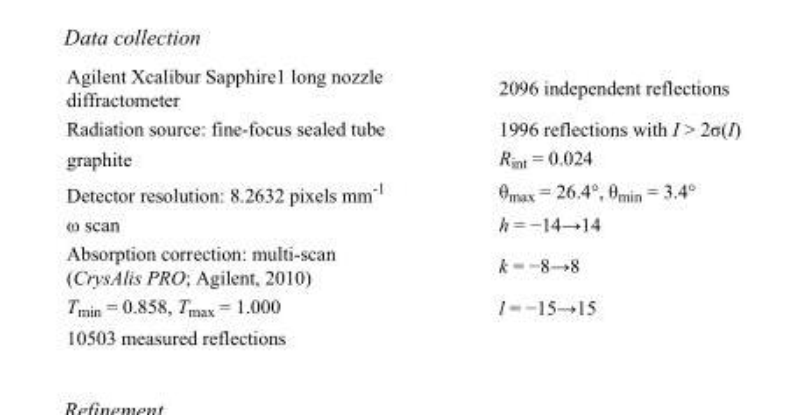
<table><tbody><tr><td>Agilent Xcalibur Sapphire1 long nozzle diffractometer</td><td>2096 independent reflections</td></tr><tr><td>Radiation source: fine-focus sealed tube</td><td>1996 reflections with I &gt; 2σ(I)</td></tr><tr><td>graphite</td><td>R<sub>int</sub> = 0.024</td></tr><tr><td>Detector resolution: 8.2632 pixels mm<sup>-1</sup></td><td>θ<sub>max</sub> = 26.4°, θ<sub>min</sub> = 3.4°</td></tr><tr><td>ω scan</td><td>h = −14→14</td></tr><tr><td>Absorption correction: multi-scan (CrysAlis PRO; Agilent, 2010)</td><td>k = −8→8</td></tr><tr><td>T<sub>min</sub> = 0.858, T<sub>max</sub> = 1.000</td><td>l = −15→15</td></tr><tr><td>10503 measured reflections</td><td></td></tr></tbody></table>